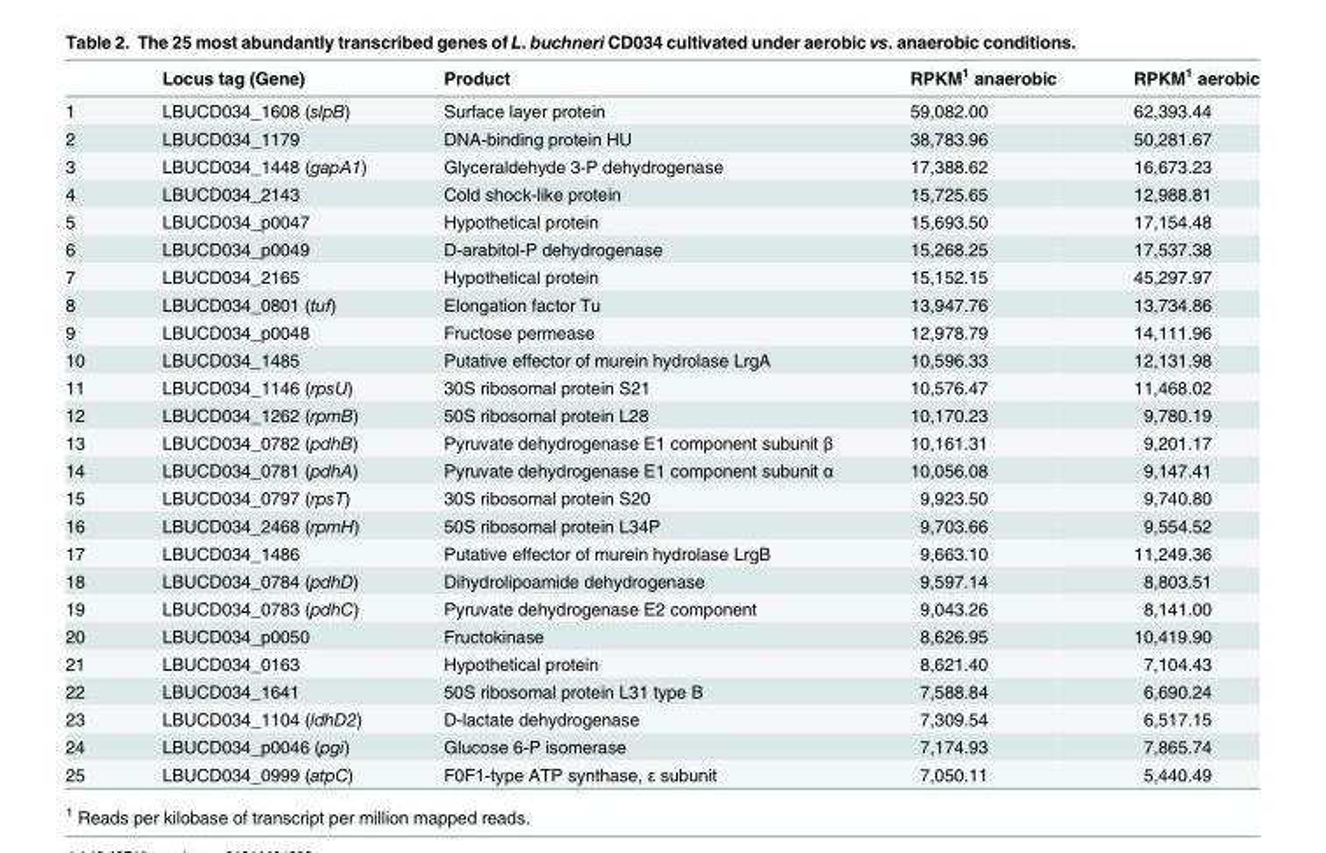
<table><thead><tr><td></td><td>Locus tag (Gene)</td><td>Product</td><td>RPKM<sup>1</sup> anaerobic</td><td>RPKM<sup>1</sup> aerobic</td></tr></thead><tbody><tr><td>1</td><td>LBUCD034_1608 (slpB)</td><td>Surface layer protein</td><td>59,082.00</td><td>62,393.44</td></tr><tr><td>2</td><td>LBUCD034_1179</td><td>DNA-binding protein HU</td><td>38,783.96</td><td>50,281.67</td></tr><tr><td>3</td><td>LBUCD034_1448 (gapA1)</td><td>Glyceraldehyde 3-P dehydrogenase</td><td>17,388.62</td><td>16,673.23</td></tr><tr><td>4</td><td>LBUCD034_2143</td><td>Cold shock-like protein</td><td>15,725.65</td><td>12,988.81</td></tr><tr><td>5</td><td>LBUCD034_p0047</td><td>Hypothetical protein</td><td>15,693.50</td><td>17,154.48</td></tr><tr><td>6</td><td>LBUCD034_p0049</td><td>D-arabitol-P dehydrogenase</td><td>15,268.25</td><td>17,537.38</td></tr><tr><td>7</td><td>LBUCD034_2165</td><td>Hypothetical protein</td><td>15,152.15</td><td>45,297.97</td></tr><tr><td>8</td><td>LBUCD034_0801 (tuf)</td><td>Elongation factor Tu</td><td>13,947.76</td><td>13,734.86</td></tr><tr><td>9</td><td>LBUCD034_p0048</td><td>Fructose permease</td><td>12,978.79</td><td>14,111.96</td></tr><tr><td>10</td><td>LBUCD034_1485</td><td>Putative effector of murein hydrolase LrgA</td><td>10,596.33</td><td>12,131.98</td></tr><tr><td>11</td><td>LBUCD034_1146 (rpsU)</td><td>30S ribosomal protein S21</td><td>10,576.47</td><td>11,468.02</td></tr><tr><td>12</td><td>LBUCD034_1262 (rpmB)</td><td>50S ribosomal protein L28</td><td>10,170.23</td><td>9,780.19</td></tr><tr><td>13</td><td>LBUCD034_0782 (pdhB)</td><td>Pyruvate dehydrogenase E1 component subunit β</td><td>10,161.31</td><td>9,201.17</td></tr><tr><td>14</td><td>LBUCD034_0781 (pdhA)</td><td>Pyruvate dehydrogenase E1 component subunit α</td><td>10,056.08</td><td>9,147.41</td></tr><tr><td>15</td><td>LBUCD034_0797 (rpsT)</td><td>30S ribosomal protein S20</td><td>9,923.50</td><td>9,740.80</td></tr><tr><td>16</td><td>LBUCD034_2468 (rpmH)</td><td>50S ribosomal protein L34P</td><td>9,703.66</td><td>9,554.52</td></tr><tr><td>17</td><td>LBUCD034_1486</td><td>Putative effector of murein hydrolase LrgB</td><td>9,663.10</td><td>11,249.36</td></tr><tr><td>18</td><td>LBUCD034_0784 (pdhD)</td><td>Dihydrolipoamide dehydrogenase</td><td>9,597.14</td><td>8,803.51</td></tr><tr><td>19</td><td>LBUCD034_0783 (pdhC)</td><td>Pyruvate dehydrogenase E2 component</td><td>9,043.26</td><td>8,141.00</td></tr><tr><td>20</td><td>LBUCD034_p0050</td><td>Fructokinase</td><td>8,626.95</td><td>10,419.90</td></tr><tr><td>21</td><td>LBUCD034_0163</td><td>Hypothetical protein</td><td>8,621.40</td><td>7,104.43</td></tr><tr><td>22</td><td>LBUCD034_1641</td><td>50S ribosomal protein L31 type B</td><td>7,588.84</td><td>6,690.24</td></tr><tr><td>23</td><td>LBUCD034_1104 (ldhD2)</td><td>D-lactate dehydrogenase</td><td>7,309.54</td><td>6,517.15</td></tr><tr><td>24</td><td>LBUCD034_p0046 (pgi)</td><td>Glucose 6-P isomerase</td><td>7,174.93</td><td>7,865.74</td></tr><tr><td>25</td><td>LBUCD034_0999 (atpC)</td><td>F0F1-type ATP synthase, ε subunit</td><td>7,050.11</td><td>5,440.49</td></tr></tbody></table>